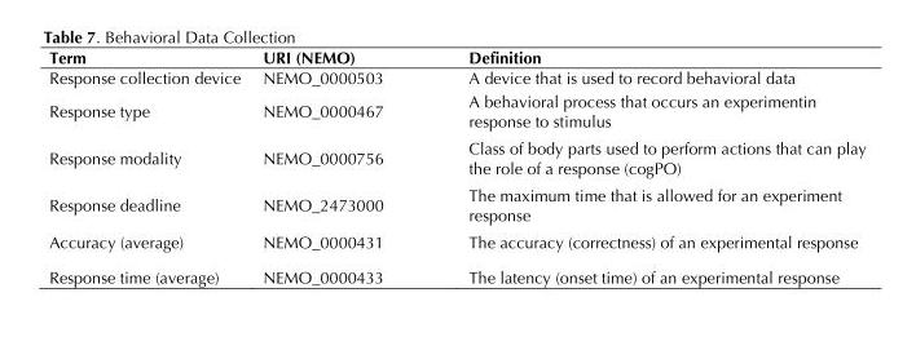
<table><thead><tr><td>Term</td><td>URI (NEMO)</td><td>Definition</td></tr></thead><tbody><tr><td>Response collection device</td><td>NEMO_0000503</td><td>A device that is used to record behavioral data</td></tr><tr><td>Response type</td><td>NEMO_0000467</td><td>A behavioral process that occurs an experimentin response to stimulus</td></tr><tr><td>Response modality</td><td>NEMO_0000756</td><td>Class of body parts used to perform actions that can play the role of a response (cogPO)</td></tr><tr><td>Response deadline</td><td>NEMO_2473000</td><td>The maximum time that is allowed for an experiment response</td></tr><tr><td>Accuracy (average)</td><td>NEMO_0000431</td><td>The accuracy (correctness) of an experimental response</td></tr><tr><td>Response time (average)</td><td>NEMO_0000433</td><td>The latency (onset time) of an experimental response</td></tr></tbody></table>